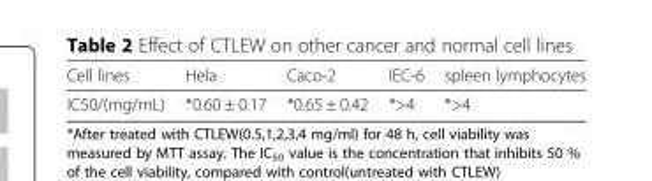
<table><thead><tr><td>Cell lines</td><td>Hela</td><td>Caco-2</td><td>IEC-6</td><td>spleen lymphocytes</td></tr></thead><tbody><tr><td>IC50/(mg/mL)</td><td>*0.60 ± 0.17</td><td>*0.65 ± 0.42</td><td>*&gt;4</td><td>*&gt;4</td></tr></tbody></table>